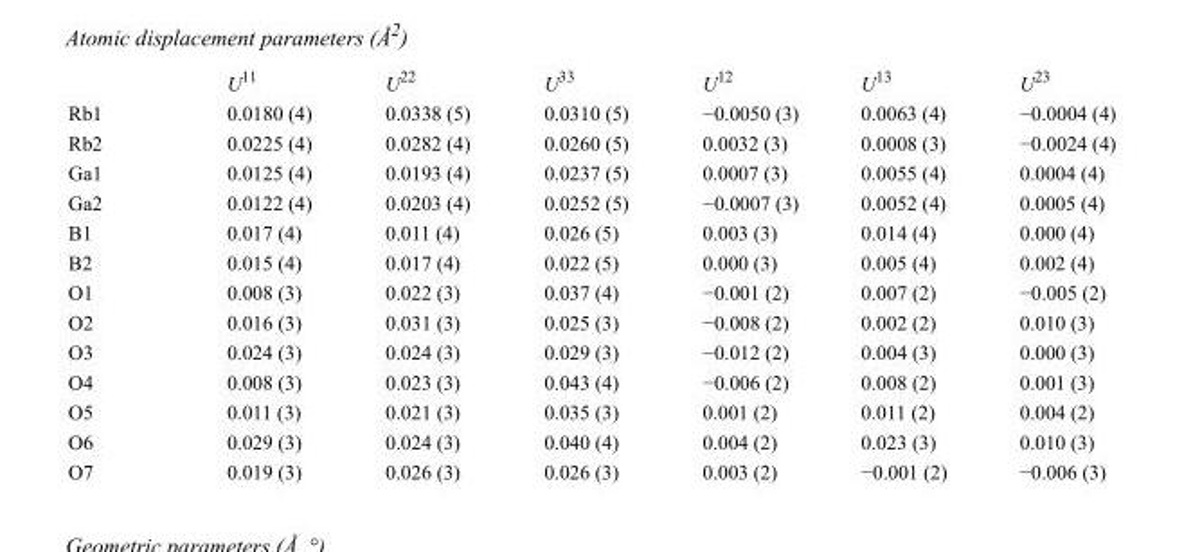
<table><thead><tr><td></td><td>U<sup>11</sup></td><td>U<sup>22</sup></td><td>U<sup>33</sup></td><td>U<sup>12</sup></td><td>U<sup>13</sup></td><td>U<sup>23</sup></td></tr></thead><tbody><tr><td>Rb1</td><td>0.0180 (4)</td><td>0.0338 (5)</td><td>0.0310 (5)</td><td>−0.0050 (3)</td><td>0.0063 (4)</td><td>−0.0004 (4)</td></tr><tr><td>Rb2</td><td>0.0225 (4)</td><td>0.0282 (4)</td><td>0.0260 (5)</td><td>0.0032 (3)</td><td>0.0008 (3)</td><td>−0.0024 (4)</td></tr><tr><td>Ga1</td><td>0.0125 (4)</td><td>0.0193 (4)</td><td>0.0237 (5)</td><td>0.0007 (3)</td><td>0.0055 (4)</td><td>0.0004 (4)</td></tr><tr><td>Ga2</td><td>0.0122 (4)</td><td>0.0203 (4)</td><td>0.0252 (5)</td><td>−0.0007 (3)</td><td>0.0052 (4)</td><td>0.0005 (4)</td></tr><tr><td>B1</td><td>0.017 (4)</td><td>0.011 (4)</td><td>0.026 (5)</td><td>0.003 (3)</td><td>0.014 (4)</td><td>0.000 (4)</td></tr><tr><td>B2</td><td>0.015 (4)</td><td>0.017 (4)</td><td>0.022 (5)</td><td>0.000 (3)</td><td>0.005 (4)</td><td>0.002 (4)</td></tr><tr><td>O1</td><td>0.008 (3)</td><td>0.022 (3)</td><td>0.037 (4)</td><td>−0.001 (2)</td><td>0.007 (2)</td><td>−0.005 (2)</td></tr><tr><td>O2</td><td>0.016 (3)</td><td>0.031 (3)</td><td>0.025 (3)</td><td>−0.008 (2)</td><td>0.002 (2)</td><td>0.010 (3)</td></tr><tr><td>O3</td><td>0.024 (3)</td><td>0.024 (3)</td><td>0.029 (3)</td><td>−0.012 (2)</td><td>0.004 (3)</td><td>0.000 (3)</td></tr><tr><td>O4</td><td>0.008 (3)</td><td>0.023 (3)</td><td>0.043 (4)</td><td>−0.006 (2)</td><td>0.008 (2)</td><td>0.001 (3)</td></tr><tr><td>O5</td><td>0.011 (3)</td><td>0.021 (3)</td><td>0.035 (3)</td><td>0.001 (2)</td><td>0.011 (2)</td><td>0.004 (2)</td></tr><tr><td>O6</td><td>0.029 (3)</td><td>0.024 (3)</td><td>0.040 (4)</td><td>0.004 (2)</td><td>0.023 (3)</td><td>0.010 (3)</td></tr><tr><td>O7</td><td>0.019 (3)</td><td>0.026 (3)</td><td>0.026 (3)</td><td>0.003 (2)</td><td>−0.001 (2)</td><td>−0.006 (3)</td></tr></tbody></table>